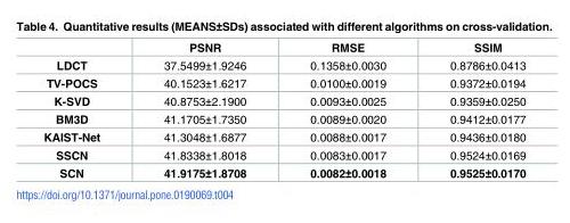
<table><thead><tr><td></td><td>PSNR</td><td>RMSE</td><td>SSIM</td></tr></thead><tbody><tr><td>LDCT</td><td>37.5499±1.9246</td><td>0.1358±0.0030</td><td>0.8786±0.0413</td></tr><tr><td>TV-POCS</td><td>40.1523±1.6217</td><td>0.0100±0.0019</td><td>0.9372±0.0194</td></tr><tr><td>K-SVD</td><td>40.8753±2.1900</td><td>0.0093±0.0025</td><td>0.9359±0.0250</td></tr><tr><td>BM3D</td><td>41.1705±1.7350</td><td>0.0089±0.0020</td><td>0.9412±0.0177</td></tr><tr><td>KAIST-Net</td><td>41.3048±1.6877</td><td>0.0088±0.0017</td><td>0.9436±0.0180</td></tr><tr><td>SSCN</td><td>41.8338±1.8018</td><td>0.0083±0.0017</td><td>0.9524±0.0169</td></tr><tr><td>SCN</td><td>41.9175±1.8708</td><td>0.0082±0.0018</td><td>0.9525±0.0170</td></tr></tbody></table>